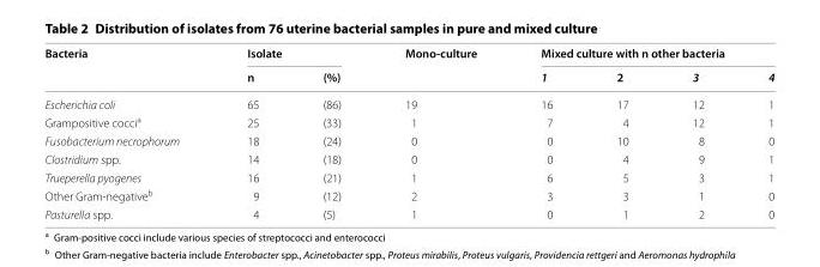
<table><thead><tr><td rowspan="2">Bacteria</td><td colspan="2">Isolate</td><td rowspan="2">Mono-culture</td><td colspan="4">Mixed culture with n other bacteria</td></tr><tr><td>n</td><td>(%)</td><td>1</td><td>2</td><td>3</td><td>4</td></tr></thead><tbody><tr><td>Escherichia coli</td><td>65</td><td>(86)</td><td>19</td><td>16</td><td>17</td><td>12</td><td>1</td></tr><tr><td>Grampositive cocci<sup>a</sup></td><td>25</td><td>(33)</td><td>1</td><td>7</td><td>4</td><td>12</td><td>1</td></tr><tr><td>Fusobacterium necrophorum</td><td>18</td><td>(24)</td><td>0</td><td>0</td><td>10</td><td>8</td><td>0</td></tr><tr><td>Clostridium spp.</td><td>14</td><td>(18)</td><td>0</td><td>0</td><td>4</td><td>9</td><td>1</td></tr><tr><td>Trueperella pyogenes</td><td>16</td><td>(21)</td><td>1</td><td>6</td><td>5</td><td>3</td><td>1</td></tr><tr><td>Other Gram‑negative<sup>b</sup></td><td>9</td><td>(12)</td><td>2</td><td>3</td><td>3</td><td>1</td><td>0</td></tr><tr><td>Pasturella spp.</td><td>4</td><td>(5)</td><td>1</td><td>0</td><td>1</td><td>2</td><td>0</td></tr></tbody></table>